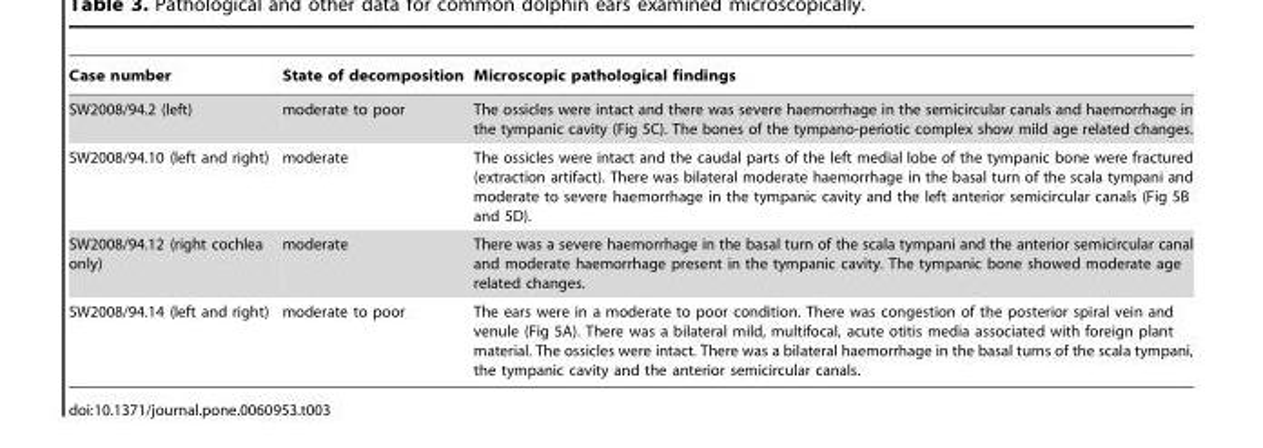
<table><thead><tr><td>Case number</td><td>State of decomposition</td><td>Microscopic pathological findings</td></tr></thead><tbody><tr><td>SW2008/94.2 (left)</td><td>moderate to poor</td><td>The ossicles were intact and there was severe haemorrhage in the semicircular canals and haemorrhage in the tympanic cavity (Fig 5C). The bones of the tympano-periotic complex show mild age related changes.</td></tr><tr><td>SW2008/94.10 (left and right)</td><td>moderate</td><td>The ossicles were intact and the caudal parts of the left medial lobe of the tympanic bone were fractured (extraction artifact). There was bilateral moderate haemorrhage in the basal turn of the scala tympani and moderate to severe haemorrhage in the tympanic cavity and the left anterior semicircular canals (Fig 5B and 5D).</td></tr><tr><td>SW2008/94.12 (right cochlea only)</td><td>moderate</td><td>There was a severe haemorrhage in the basal turn of the scala tympani and the anterior semicircular canal and moderate haemorrhage present in the tympanic cavity. The tympanic bone showed moderate age related changes.</td></tr><tr><td>SW2008/94.14 (left and right)</td><td>moderate to poor</td><td>The ears were in a moderate to poor condition. There was congestion of the posterior spiral vein and venule (Fig 5A). There was a bilateral mild, multifocal, acute otitis media associated with foreign plant material. The ossicles were intact. There was a bilateral haemorrhage in the basal turns of the scala tympani, the tympanic cavity and the anterior semicircular canals.</td></tr></tbody></table>